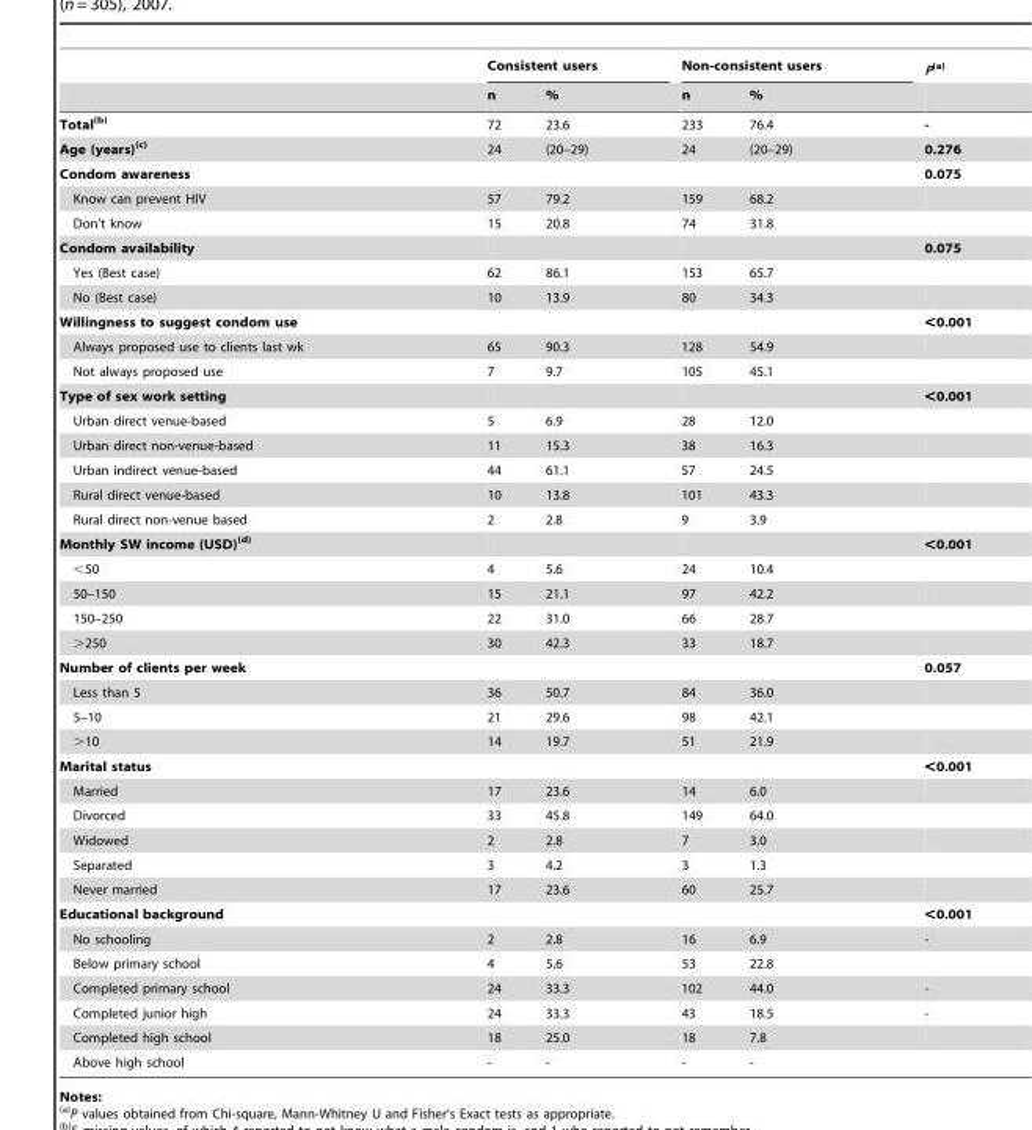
<table><thead><tr><td rowspan="2"></td><td colspan="2">Consistent users</td><td colspan="2">Non-consistent users</td><td rowspan="2">P(a)</td></tr><tr><td>n</td><td>%</td><td>n</td><td>%</td></tr></thead><tbody><tr><td>Total(b)</td><td>72</td><td>23.6</td><td>233</td><td>76.4</td><td>-</td></tr><tr><td>Age (years)(c)</td><td>24</td><td>(20–29)</td><td>24</td><td>(20–29)</td><td>0.276</td></tr><tr><td>Condom awareness</td><td></td><td></td><td></td><td></td><td>0.075</td></tr><tr><td>Know can prevent HIV</td><td>57</td><td>79.2</td><td>159</td><td>68.2</td><td></td></tr><tr><td>Don’t know</td><td>15</td><td>20.8</td><td>74</td><td>31.8</td><td></td></tr><tr><td>Condom availability</td><td></td><td></td><td></td><td></td><td>0.075</td></tr><tr><td>Yes (Best case)</td><td>62</td><td>86.1</td><td>153</td><td>65.7</td><td></td></tr><tr><td>No (Best case)</td><td>10</td><td>13.9</td><td>80</td><td>34.3</td><td></td></tr><tr><td>Willingness to suggest condom use</td><td></td><td></td><td></td><td></td><td>&lt;0.001</td></tr><tr><td>Always proposed use to clients last wk</td><td>65</td><td>90.3</td><td>128</td><td>54.9</td><td></td></tr><tr><td>Not always proposed use</td><td>7</td><td>9.7</td><td>105</td><td>45.1</td><td></td></tr><tr><td>Type of sex work setting</td><td></td><td></td><td></td><td></td><td>&lt;0.001</td></tr><tr><td>Urban direct venue-based</td><td>5</td><td>6.9</td><td>28</td><td>12.0</td><td></td></tr><tr><td>Urban direct non-venue-based</td><td>11</td><td>15.3</td><td>38</td><td>16.3</td><td></td></tr><tr><td>Urban indirect venue-based</td><td>44</td><td>61.1</td><td>57</td><td>24.5</td><td></td></tr><tr><td>Rural direct venue-based</td><td>10</td><td>13.8</td><td>101</td><td>43.3</td><td></td></tr><tr><td>Rural direct non-venue based</td><td>2</td><td>2.8</td><td>9</td><td>3.9</td><td></td></tr><tr><td>Monthly SW income (USD)(d)</td><td></td><td></td><td></td><td></td><td>&lt;0.001</td></tr><tr><td>&lt;50</td><td>4</td><td>5.6</td><td>24</td><td>10.4</td><td></td></tr><tr><td>50–150</td><td>15</td><td>21.1</td><td>97</td><td>42.2</td><td></td></tr><tr><td>150–250</td><td>22</td><td>31.0</td><td>66</td><td>28.7</td><td></td></tr><tr><td>&gt;250</td><td>30</td><td>42.3</td><td>33</td><td>18.7</td><td></td></tr><tr><td>Number of clients per week</td><td></td><td></td><td></td><td></td><td>0.057</td></tr><tr><td>Less than 5</td><td>36</td><td>50.7</td><td>84</td><td>36.0</td><td></td></tr><tr><td>5–10</td><td>21</td><td>29.6</td><td>98</td><td>42.1</td><td></td></tr><tr><td>&gt;10</td><td>14</td><td>19.7</td><td>51</td><td>21.9</td><td></td></tr><tr><td>Marital status</td><td></td><td></td><td></td><td></td><td>&lt;0.001</td></tr><tr><td>Married</td><td>17</td><td>23.6</td><td>14</td><td>6.0</td><td></td></tr><tr><td>Divorced</td><td>33</td><td>45.8</td><td>149</td><td>64.0</td><td></td></tr><tr><td>Widowed</td><td>2</td><td>2.8</td><td>7</td><td>3.0</td><td></td></tr><tr><td>Separated</td><td>3</td><td>4.2</td><td>3</td><td>1.3</td><td></td></tr><tr><td>Never married</td><td>17</td><td>23.6</td><td>60</td><td>25.7</td><td></td></tr><tr><td>Educational background</td><td></td><td></td><td></td><td></td><td>&lt;0.001</td></tr><tr><td>No schooling</td><td>2</td><td>2.8</td><td>16</td><td>6.9</td><td>-</td></tr><tr><td>Below primary school</td><td>4</td><td>5.6</td><td>53</td><td>22.8</td><td></td></tr><tr><td>Completed primary school</td><td>24</td><td>33.3</td><td>102</td><td>44.0</td><td>-</td></tr><tr><td>Completed junior high</td><td>24</td><td>33.3</td><td>43</td><td>18.5</td><td>-</td></tr><tr><td>Completed high school</td><td>18</td><td>25.0</td><td>18</td><td>7.8</td><td></td></tr><tr><td>Above high school</td><td>-</td><td>-</td><td>-</td><td>-</td><td></td></tr></tbody></table>